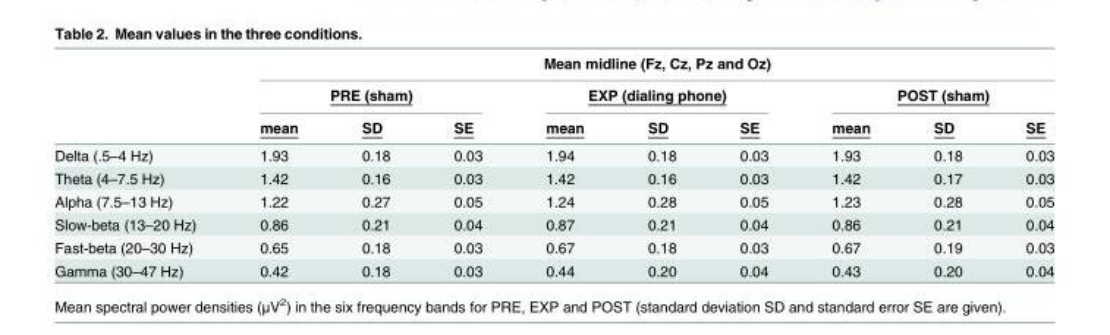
<table><thead><tr><td rowspan="3"></td><td colspan="9">Mean midline (Fz, Cz, Pz and Oz)</td></tr><tr><td colspan="3">PRE (sham)</td><td colspan="3">EXP (dialing phone)</td><td colspan="3">POST (sham)</td></tr><tr><td>mean</td><td>SD</td><td>SE</td><td>mean</td><td>SD</td><td>SE</td><td>mean</td><td>SD</td><td>SE</td></tr></thead><tbody><tr><td>Delta (.5–4 Hz)</td><td>1.93</td><td>0.18</td><td>0.03</td><td>1.94</td><td>0.18</td><td>0.03</td><td>1.93</td><td>0.18</td><td>0.03</td></tr><tr><td>Theta (4–7.5 Hz)</td><td>1.42</td><td>0.16</td><td>0.03</td><td>1.42</td><td>0.16</td><td>0.03</td><td>1.42</td><td>0.17</td><td>0.03</td></tr><tr><td>Alpha (7.5–13 Hz)</td><td>1.22</td><td>0.27</td><td>0.05</td><td>1.24</td><td>0.28</td><td>0.05</td><td>1.23</td><td>0.28</td><td>0.05</td></tr><tr><td>Slow-beta (13–20 Hz)</td><td>0.86</td><td>0.21</td><td>0.04</td><td>0.87</td><td>0.21</td><td>0.04</td><td>0.86</td><td>0.21</td><td>0.04</td></tr><tr><td>Fast-beta (20–30 Hz)</td><td>0.65</td><td>0.18</td><td>0.03</td><td>0.67</td><td>0.18</td><td>0.03</td><td>0.67</td><td>0.19</td><td>0.03</td></tr><tr><td>Gamma (30–47 Hz)</td><td>0.42</td><td>0.18</td><td>0.03</td><td>0.44</td><td>0.20</td><td>0.04</td><td>0.43</td><td>0.20</td><td>0.04</td></tr></tbody></table>